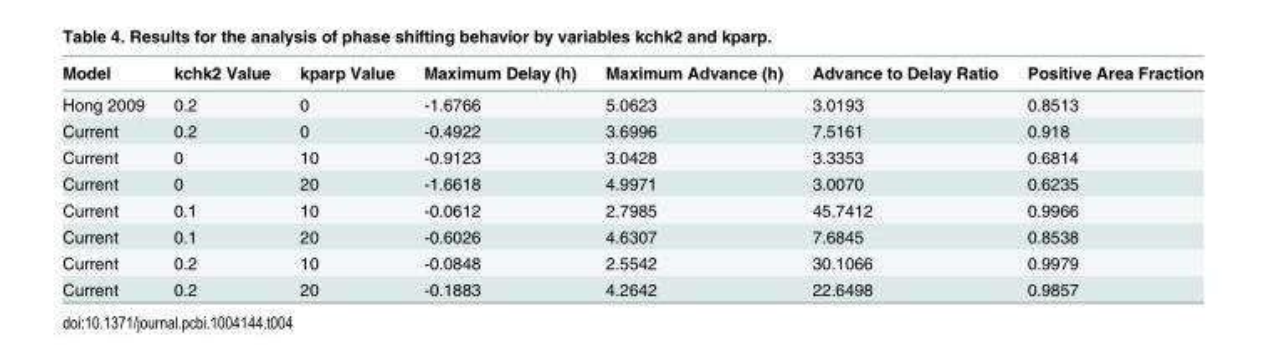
<table><thead><tr><td>Model</td><td>kchk2 Value</td><td>kparp Value</td><td>Maximum Delay (h)</td><td>Maximum Advance (h)</td><td>Advance to Delay Ratio</td><td>Positive Area Fraction</td></tr></thead><tbody><tr><td>Hong 2009</td><td>0.2</td><td>0</td><td>-1.6766</td><td>5.0623</td><td>3.0193</td><td>0.8513</td></tr><tr><td>Current</td><td>0.2</td><td>0</td><td>-0.4922</td><td>3.6996</td><td>7.5161</td><td>0.918</td></tr><tr><td>Current</td><td>0</td><td>10</td><td>-0.9123</td><td>3.0428</td><td>3.3353</td><td>0.6814</td></tr><tr><td>Current</td><td>0</td><td>20</td><td>-1.6618</td><td>4.9971</td><td>3.0070</td><td>0.6235</td></tr><tr><td>Current</td><td>0.1</td><td>10</td><td>-0.0612</td><td>2.7985</td><td>45.7412</td><td>0.9966</td></tr><tr><td>Current</td><td>0.1</td><td>20</td><td>-0.6026</td><td>4.6307</td><td>7.6845</td><td>0.8538</td></tr><tr><td>Current</td><td>0.2</td><td>10</td><td>-0.0848</td><td>2.5542</td><td>30.1066</td><td>0.9979</td></tr><tr><td>Current</td><td>0.2</td><td>20</td><td>-0.1883</td><td>4.2642</td><td>22.6498</td><td>0.9857</td></tr></tbody></table>